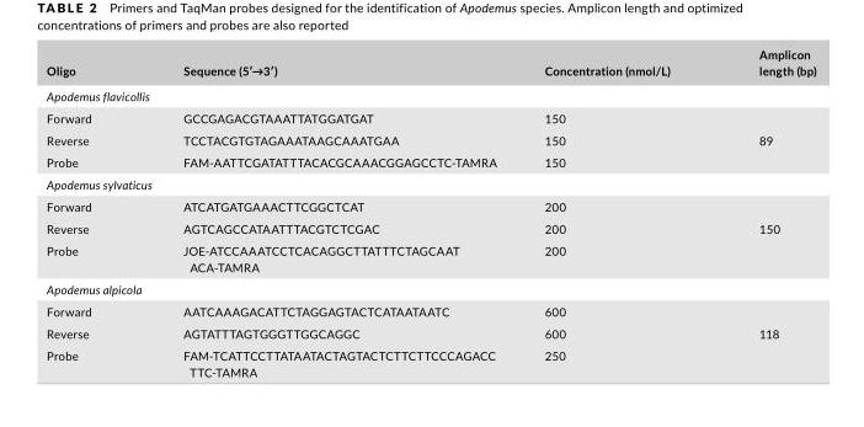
<table><thead><tr><td>Oligo</td><td>Sequence (5′→3′)</td><td>Concentration (nmol/L)</td><td>Amplicon length (bp)</td></tr></thead><tbody><tr><td colspan="4">Apodemus flavicollis</td></tr><tr><td>Forward</td><td>GCCGAGACGTAAATTATGGATGAT</td><td>150</td><td></td></tr><tr><td>Reverse</td><td>TCCTACGTGTAGAAATAAGCAAATGAA</td><td>150</td><td>89</td></tr><tr><td>Probe</td><td>FAM- AATTCGATATTTACACGCAAACGGAGCCTC- TAMRA</td><td>150</td><td></td></tr><tr><td colspan="4">Apodemus sylvaticus</td></tr><tr><td>Forward</td><td>ATCATGATGAAACTTCGGCTCAT</td><td>200</td><td></td></tr><tr><td>Reverse</td><td>AGTCAGCCATAATTTACGTCTCGAC</td><td>200</td><td>150</td></tr><tr><td>Probe</td><td>JOE- ATCCAAATCCTCACAGGCTTATTTCTAGCAAT ACA- TAMRA</td><td>200</td><td></td></tr><tr><td colspan="4">Apodemus alpicola</td></tr><tr><td>Forward</td><td>AATCAAAGACATTCTAGGAGTACTCATAATAATC</td><td>600</td><td></td></tr><tr><td>Reverse</td><td>AGTATTTAGTGGGTTGGCAGGC</td><td>600</td><td>118</td></tr><tr><td>Probe</td><td>FAM- TCATTCCTTATAATACTAGTACTCTTCTTCCCAGACC TTC- TAMRA</td><td>250</td><td></td></tr></tbody></table>